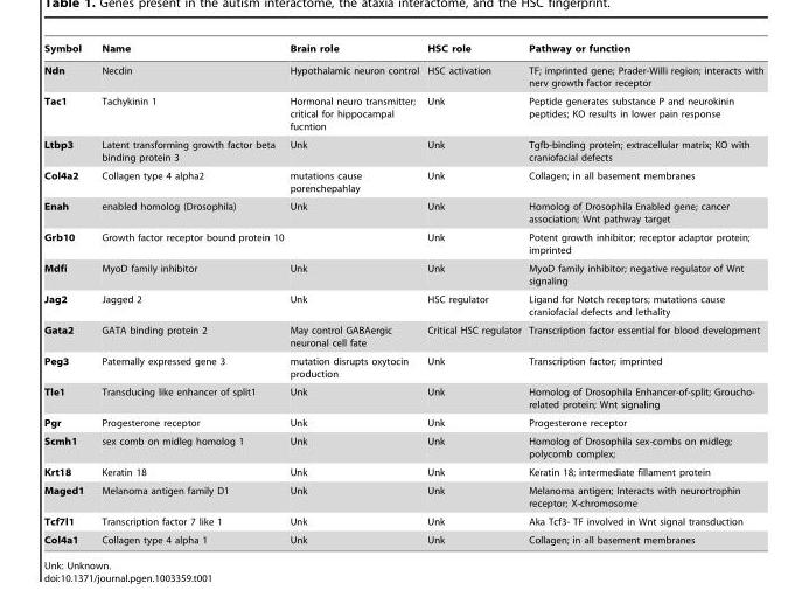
<table><thead><tr><td>Symbol</td><td>Name</td><td>Brain role</td><td>HSC role</td><td>Pathway or function</td></tr></thead><tbody><tr><td>Ndn</td><td>Necdin</td><td>Hypothalamic neuron control</td><td>HSC activation</td><td>TF; imprinted gene; Prader-Willi region; interacts with nerv growth factor receptor</td></tr><tr><td>Tac1</td><td>Tachykinin 1</td><td>Hormonal neuro transmitter; critical for hippocampal fucntion</td><td>Unk</td><td>Peptide generates substance P and neurokinin peptides; KO results in lower pain response</td></tr><tr><td>Ltbp3</td><td>Latent transforming growth factor beta binding protein 3</td><td>Unk</td><td>Unk</td><td>Tgfb-binding protein; extracellular matrix; KO with craniofacial defects</td></tr><tr><td>Col4a2</td><td>Collagen type 4 alpha2</td><td>mutations cause porenchepahlay</td><td>Unk</td><td>Collagen; in all basement membranes</td></tr><tr><td>Enah</td><td>enabled homolog (Drosophila)</td><td>Unk</td><td>Unk</td><td>Homolog of Drosophila Enabled gene; cancer association; Wnt pathway target</td></tr><tr><td>Grb10</td><td>Growth factor receptor bound protein 10</td><td></td><td>Unk</td><td>Potent growth inhibitor; receptor adaptor protein; imprinted</td></tr><tr><td>Mdfi</td><td>MyoD family inhibitor</td><td>Unk</td><td>Unk</td><td>MyoD family inhibitor; negative regulator of Wnt signaling</td></tr><tr><td>Jag2</td><td>Jagged 2</td><td>Unk</td><td>HSC regulator</td><td>Ligand for Notch receptors; mutations cause craniofacial defects and lethality</td></tr><tr><td>Gata2</td><td>GATA binding protein 2</td><td>May control GABAergic neuronal cell fate</td><td>Critical HSC regulator</td><td>Transcription factor essential for blood development</td></tr><tr><td>Peg3</td><td>Paternally expressed gene 3</td><td>mutation disrupts oxytocin production</td><td>Unk</td><td>Transcription factor; imprinted</td></tr><tr><td>Tle1</td><td>Transducing like enhancer of split1</td><td>Unk</td><td>Unk</td><td>Homolog of Drosophila Enhancer-of-split; Groucho- related protein; Wnt signaling</td></tr><tr><td>Pgr</td><td>Progesterone receptor</td><td>Unk</td><td>Unk</td><td>Progesterone receptor</td></tr><tr><td>Scmh1</td><td>sex comb on midleg homolog 1</td><td>Unk</td><td>Unk</td><td>Homolog of Drosophila sex-combs on midleg; polycomb complex;</td></tr><tr><td>Krt18</td><td>Keratin 18</td><td>Unk</td><td>Unk</td><td>Keratin 18; intermediate fillament protein</td></tr><tr><td>Maged1</td><td>Melanoma antigen family D1</td><td>Unk</td><td>Unk</td><td>Melanoma antigen; Interacts with neurortrophin receptor; X-chromosome</td></tr><tr><td>Tcf7l1</td><td>Transcription factor 7 like 1</td><td>Unk</td><td>Unk</td><td>Aka Tcf3- TF involved in Wnt signal transduction</td></tr><tr><td>Col4a1</td><td>Collagen type 4 alpha 1</td><td>Unk</td><td>Unk</td><td>Collagen; in all basement membranes</td></tr></tbody></table>